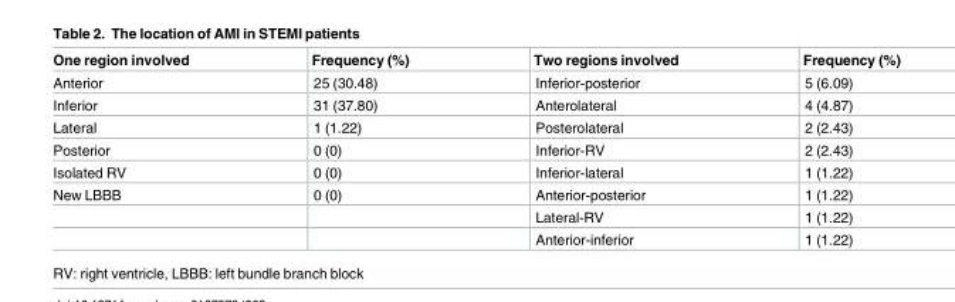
<table><thead><tr><td>One region involved</td><td>Frequency (%)</td><td>Two regions involved</td><td>Frequency (%)</td></tr></thead><tbody><tr><td>Anterior</td><td>25 (30.48)</td><td>Inferior-posterior</td><td>5 (6.09)</td></tr><tr><td>Inferior</td><td>31 (37.80)</td><td>Anterolateral</td><td>4 (4.87)</td></tr><tr><td>Lateral</td><td>1 (1.22)</td><td>Posterolateral</td><td>2 (2.43)</td></tr><tr><td>Posterior</td><td>0 (0)</td><td>Inferior-RV</td><td>2 (2.43)</td></tr><tr><td>Isolated RV</td><td>0 (0)</td><td>Inferior-lateral</td><td>1 (1.22)</td></tr><tr><td rowspan="3">New LBBB</td><td>0 (0)</td><td>Anterior-posterior</td><td>1 (1.22)</td></tr><tr><td></td><td>Lateral-RV</td><td>1 (1.22)</td></tr><tr><td></td><td>Anterior-inferior</td><td>1 (1.22)</td></tr></tbody></table>